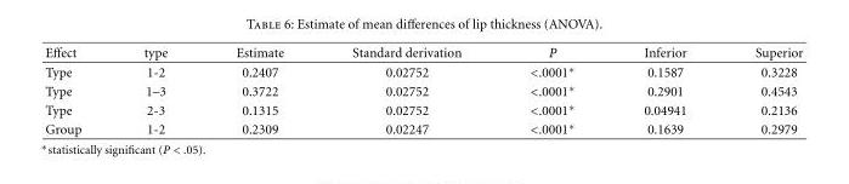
<table><thead><tr><td>Effect</td><td>type</td><td>Estimate</td><td>Standard derivation</td><td>P</td><td>Inferior</td><td>Superior</td></tr></thead><tbody><tr><td>Type</td><td>1-2</td><td>0.2407</td><td>0.02752</td><td>&lt;.0001∗</td><td>0.1587</td><td>0.3228</td></tr><tr><td>Type</td><td>1–3</td><td>0.3722</td><td>0.02752</td><td>&lt;.0001∗</td><td>0.2901</td><td>0.4543</td></tr><tr><td>Type</td><td>2-3</td><td>0.1315</td><td>0.02752</td><td>&lt;.0001∗</td><td>0.04941</td><td>0.2136</td></tr><tr><td>Group</td><td>1-2</td><td>0.2309</td><td>0.02247</td><td>&lt;.0001∗</td><td>0.1639</td><td>0.2979</td></tr></tbody></table>